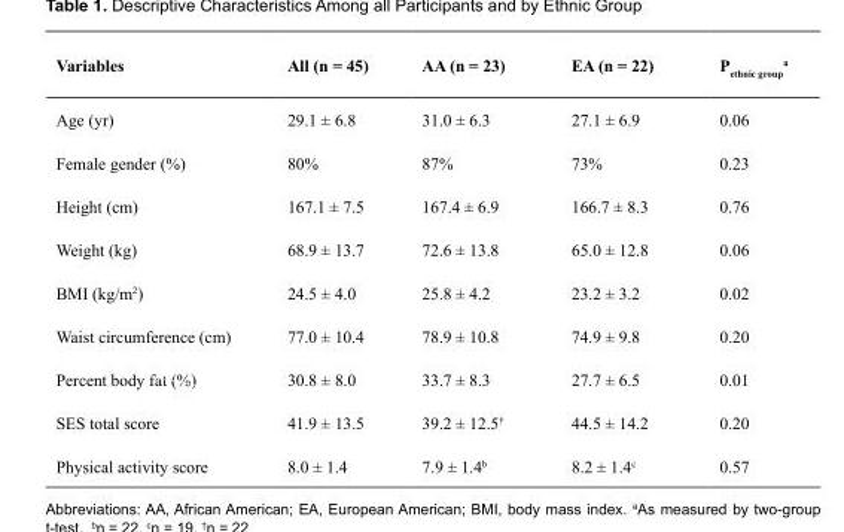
<table><thead><tr><td>Variables</td><td>All (n = 45)</td><td>AA (n = 23)</td><td>EA (n = 22)</td><td>P<sub>ethnic group</sub> <sup>a</sup></td></tr></thead><tbody><tr><td>Age (yr)</td><td>29.1 ± 6.8</td><td>31.0 ± 6.3</td><td>27.1 ± 6.9</td><td>0.06</td></tr><tr><td>Female gender (%)</td><td>80%</td><td>87%</td><td>73%</td><td>0.23</td></tr><tr><td>Height (cm)</td><td>167.1 ± 7.5</td><td>167.4 ± 6.9</td><td>166.7 ± 8.3</td><td>0.76</td></tr><tr><td>Weight (kg)</td><td>68.9 ± 13.7</td><td>72.6 ± 13.8</td><td>65.0 ± 12.8</td><td>0.06</td></tr><tr><td>BMI (kg/m<sup>2</sup>)</td><td>24.5 ± 4.0</td><td>25.8 ± 4.2</td><td>23.2 ± 3.2</td><td>0.02</td></tr><tr><td>Waist circumference (cm)</td><td>77.0 ± 10.4</td><td>78.9 ± 10.8</td><td>74.9 ± 9.8</td><td>0.20</td></tr><tr><td>Percent body fat (%)</td><td>30.8 ± 8.0</td><td>33.7 ± 8.3</td><td>27.7 ± 6.5</td><td>0.01</td></tr><tr><td>SES total score</td><td>41.9 ± 13.5</td><td>39.2 ± 12.5<sup>†</sup></td><td>44.5 ± 14.2</td><td>0.20</td></tr><tr><td>Physical activity score</td><td>8.0 ± 1.4</td><td>7.9 ± 1.4<sup>b</sup></td><td>8.2 ± 1.4<sup>c</sup></td><td>0.57</td></tr></tbody></table>